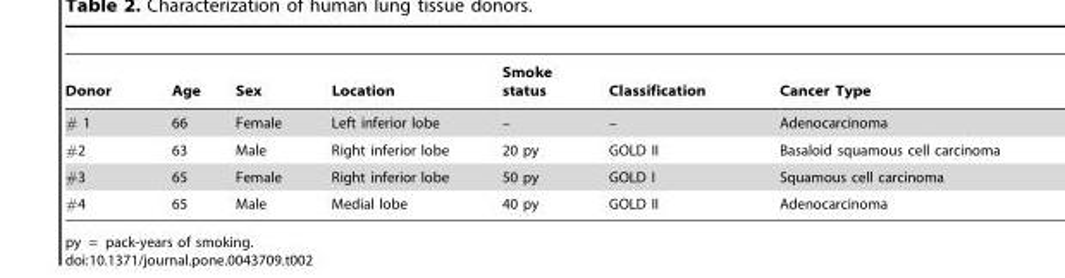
<table><thead><tr><td>Donor</td><td>Age</td><td>Sex</td><td>Location</td><td>Smoke status</td><td>Classification</td><td>Cancer Type</td></tr></thead><tbody><tr><td># 1</td><td>66</td><td>Female</td><td>Left inferior lobe</td><td>–</td><td>–</td><td>Adenocarcinoma</td></tr><tr><td>#2</td><td>63</td><td>Male</td><td>Right inferior lobe</td><td>20 py</td><td>GOLD II</td><td>Basaloid squamous cell carcinoma</td></tr><tr><td>#3</td><td>65</td><td>Female</td><td>Right inferior lobe</td><td>50 py</td><td>GOLD I</td><td>Squamous cell carcinoma</td></tr><tr><td>#4</td><td>65</td><td>Male</td><td>Medial lobe</td><td>40 py</td><td>GOLD II</td><td>Adenocarcinoma</td></tr></tbody></table>